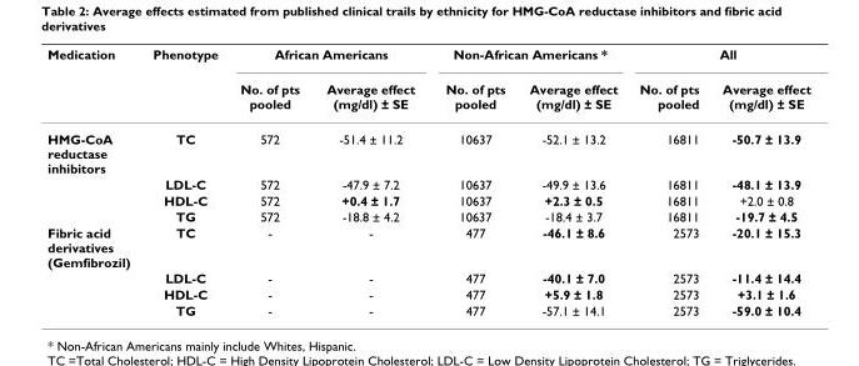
<table><thead><tr><td rowspan="2">Medication</td><td rowspan="2">Phenotype</td><td colspan="2">African Americans</td><td colspan="2">Non-African Americans *</td><td colspan="2">All</td></tr><tr><td>No. of pts pooled</td><td>Average effect (mg/dl) ± SE</td><td>No. of pts pooled</td><td>Average effect (mg/dl) ± SE</td><td>No. of pts pooled</td><td>Average effect (mg/dl) ± SE</td></tr></thead><tbody><tr><td rowspan="4">HMG-CoA reductase inhibitors</td><td>TC</td><td>572</td><td>-51.4 ± 11.2</td><td>10637</td><td>-52.1 ± 13.2</td><td>16811</td><td>-50.7 ± 13.9</td></tr><tr><td>LDL-C</td><td>572</td><td>-47.9 ± 7.2</td><td>10637</td><td>-49.9 ± 13.6</td><td>16811</td><td>-48.1 ± 13.9</td></tr><tr><td>HDL-C</td><td>572</td><td>+0.4 ± 1.7</td><td>10637</td><td>+2.3 ± 0.5</td><td>16811</td><td>+2.0 ± 0.8</td></tr><tr><td>TG</td><td>572</td><td>-18.8 ± 4.2</td><td>10637</td><td>-18.4 ± 3.7</td><td>16811</td><td>-19.7 ± 4.5</td></tr><tr><td rowspan="4">Fibric acid derivatives (Gemfibrozil)</td><td>TC</td><td>-</td><td>-</td><td>477</td><td>-46.1 ± 8.6</td><td>2573</td><td>-20.1 ± 15.3</td></tr><tr><td>LDL-C</td><td>-</td><td>-</td><td>477</td><td>-40.1 ± 7.0</td><td>2573</td><td>-11.4 ± 14.4</td></tr><tr><td>HDL-C</td><td>-</td><td>-</td><td>477</td><td>+5.9 ± 1.8</td><td>2573</td><td>+3.1 ± 1.6</td></tr><tr><td>TG</td><td>-</td><td>-</td><td>477</td><td>-57.1 ± 14.1</td><td>2573</td><td>-59.0 ± 10.4</td></tr></tbody></table>